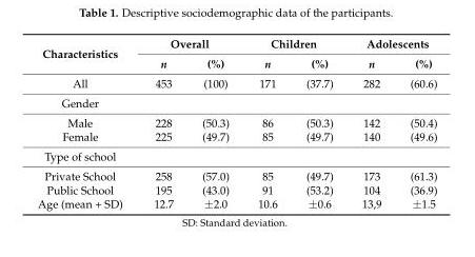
<table><thead><tr><td rowspan="2">Characteristics</td><td colspan="2">Overall</td><td colspan="2">Children</td><td colspan="2">Adolescents</td></tr><tr><td>n</td><td>(%)</td><td>n</td><td>(%)</td><td>n</td><td>(%)</td></tr></thead><tbody><tr><td>All</td><td>453</td><td>(100)</td><td>171</td><td>(37.7)</td><td>282</td><td>(60.6)</td></tr><tr><td colspan="7">Gender</td></tr><tr><td>Male</td><td>228</td><td>(50.3)</td><td>86</td><td>(50.3)</td><td>142</td><td>(50.4)</td></tr><tr><td>Female</td><td>225</td><td>(49.7)</td><td>85</td><td>(49.7)</td><td>140</td><td>(49.6)</td></tr><tr><td colspan="7">Type of school</td></tr><tr><td>Private School</td><td>258</td><td>(57.0)</td><td>85</td><td>(49.7)</td><td>173</td><td>(61.3)</td></tr><tr><td>Public School</td><td>195</td><td>(43.0)</td><td>91</td><td>(53.2)</td><td>104</td><td>(36.9)</td></tr><tr><td>Age (mean + SD)</td><td>12.7</td><td>±2.0</td><td>10.6</td><td>±0.6</td><td>13,9</td><td>±1.5</td></tr></tbody></table>